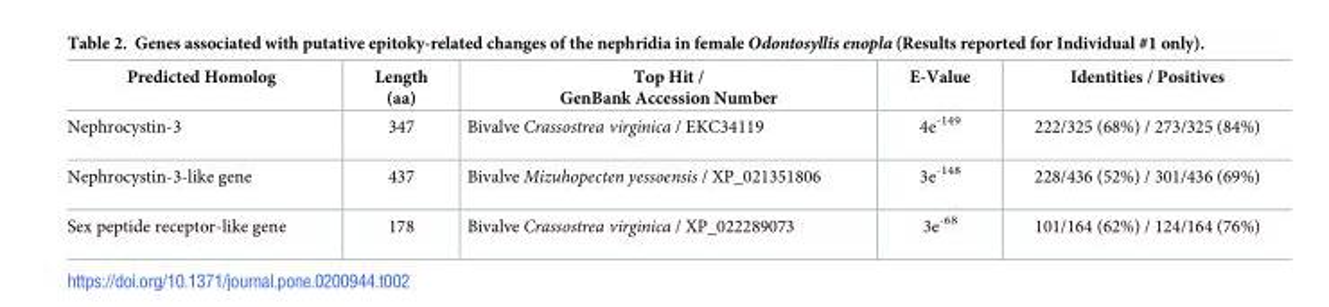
<table><thead><tr><td>Predicted Homolog</td><td>Length (aa)</td><td>Top Hit / GenBank Accession Number</td><td>E-Value</td><td>Identities / Positives</td></tr></thead><tbody><tr><td>Nephrocystin-3</td><td>347</td><td>Bivalve Crassostrea virginica / EKC34119</td><td>4e<sup>-149</sup></td><td>222/325 (68%) / 273/325 (84%)</td></tr><tr><td>Nephrocystin-3-like gene</td><td>437</td><td>Bivalve Mizuhopecten yessoensis / XP_021351806</td><td>3e<sup>-148</sup></td><td>228/436 (52%) / 301/436 (69%)</td></tr><tr><td>Sex peptide receptor-like gene</td><td>178</td><td>Bivalve Crassostrea virginica / XP_022289073</td><td>3e<sup>-68</sup></td><td>101/164 (62%) / 124/164 (76%)</td></tr></tbody></table>